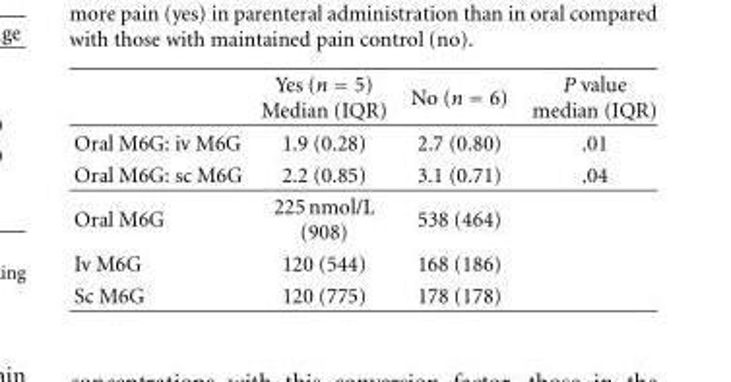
<table><thead><tr><td></td><td>Yes (n = 5) Median (IQR)</td><td>No (n = 6)</td><td>P value median (IQR)</td></tr></thead><tbody><tr><td>Oral M6G: iv M6G</td><td>1.9 (0.28)</td><td>2.7 (0.80)</td><td>.01</td></tr><tr><td>Oral M6G: sc M6G</td><td>2.2 (0.85)</td><td>3.1 (0.71)</td><td>.04</td></tr><tr><td>Oral M6G</td><td>225 nmol/L (908)</td><td>538 (464)</td><td></td></tr><tr><td>Iv M6G</td><td>120 (544)</td><td>168 (186)</td><td></td></tr><tr><td>Sc M6G</td><td>120 (775)</td><td>178 (178)</td><td></td></tr></tbody></table>